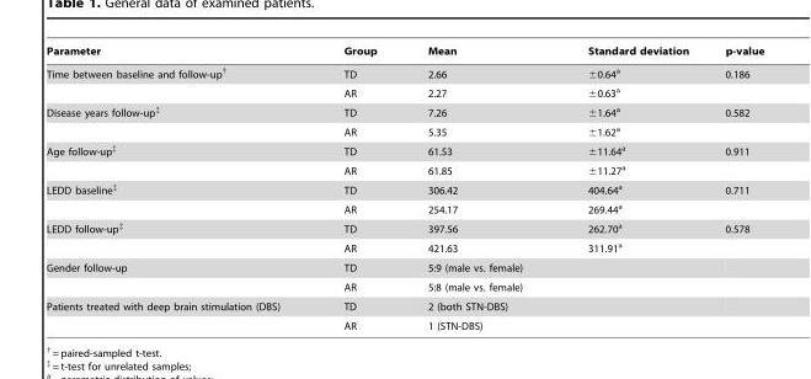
<table><thead><tr><td>Parameter</td><td>Group</td><td>Mean</td><td>Standard deviation</td><td>p-value</td></tr></thead><tbody><tr><td rowspan="2">Time between baseline and follow-up†</td><td>TD</td><td>2.66</td><td>±0.64<sup>a</sup></td><td>0.186</td></tr><tr><td>AR</td><td>2.27</td><td>±0.63<sup>a</sup></td><td></td></tr><tr><td rowspan="2">Disease years follow-up‡</td><td>TD</td><td>7.26</td><td>±1.64<sup>a</sup></td><td>0.582</td></tr><tr><td>AR</td><td>5.35</td><td>±1.62<sup>a</sup></td><td></td></tr><tr><td rowspan="2">Age follow-up‡</td><td>TD</td><td>61.53</td><td>±11.64<sup>a</sup></td><td>0.911</td></tr><tr><td>AR</td><td>61.85</td><td>±11.27<sup>a</sup></td><td></td></tr><tr><td rowspan="2">LEDD baseline‡</td><td>TD</td><td>306.42</td><td>404.64<sup>a</sup></td><td>0.711</td></tr><tr><td>AR</td><td>254.17</td><td>269.44<sup>a</sup></td><td></td></tr><tr><td rowspan="2">LEDD follow-up‡</td><td>TD</td><td>397.56</td><td>262.70<sup>a</sup></td><td>0.578</td></tr><tr><td>AR</td><td>421.63</td><td>311.91<sup>a</sup></td><td></td></tr><tr><td rowspan="2">Gender follow-up</td><td>TD</td><td>5:9 (male vs. female)</td><td></td><td></td></tr><tr><td>AR</td><td>5:8 (male vs. female)</td><td></td><td></td></tr><tr><td rowspan="2">Patients treated with deep brain stimulation (DBS)</td><td>TD</td><td>2 (both STN-DBS)</td><td></td><td></td></tr><tr><td>AR</td><td>1 (STN-DBS)</td><td></td><td></td></tr></tbody></table>